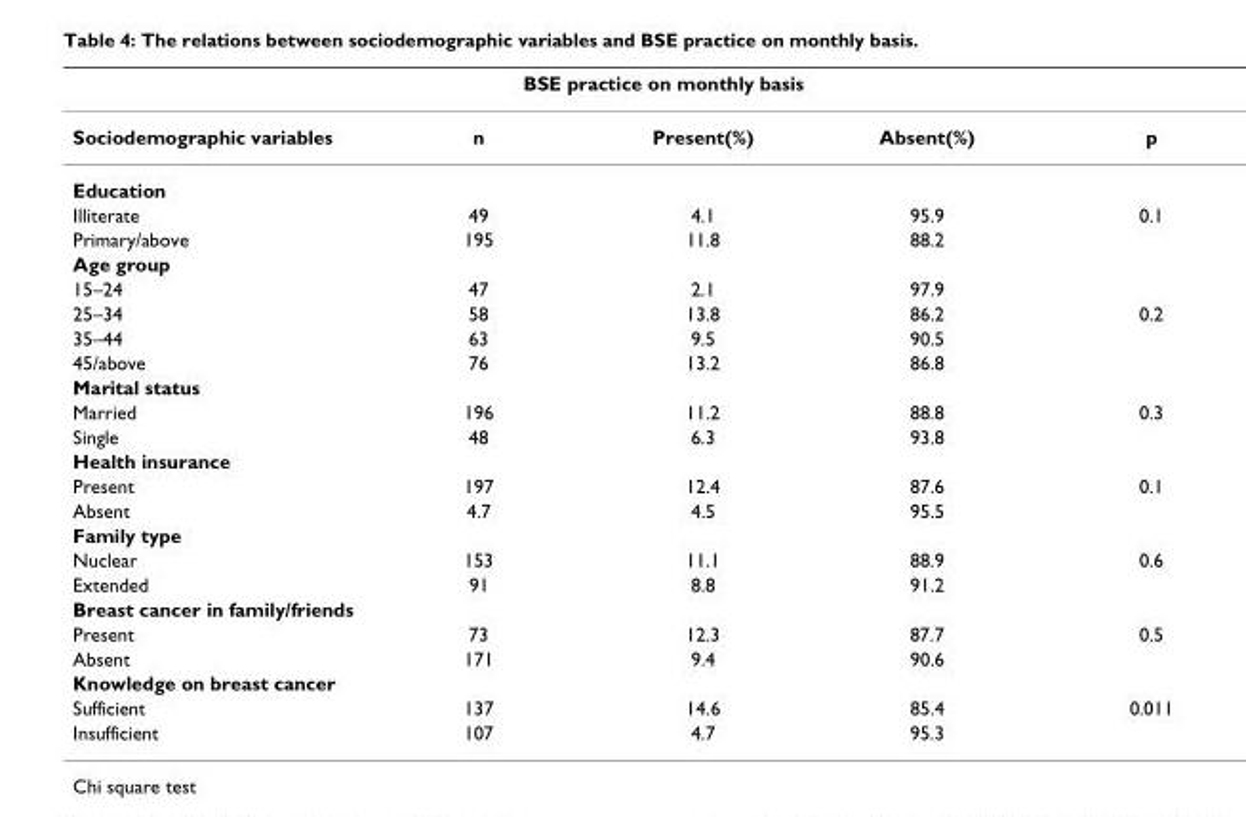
<table><thead><tr><td colspan="5">BSE practice on monthly basis</td></tr><tr><td>Sociodemographic variables</td><td>n</td><td>Present(%)</td><td>Absent(%)</td><td>p</td></tr></thead><tbody><tr><td colspan="5">Education</td></tr><tr><td>Illiterate</td><td>49</td><td>4.1</td><td>95.9</td><td>0.1</td></tr><tr><td>Primary/above</td><td>195</td><td>11.8</td><td>88.2</td><td></td></tr><tr><td colspan="5">Age group</td></tr><tr><td>15–24</td><td>47</td><td>2.1</td><td>97.9</td><td></td></tr><tr><td>25–34</td><td>58</td><td>13.8</td><td>86.2</td><td>0.2</td></tr><tr><td>35–44</td><td>63</td><td>9.5</td><td>90.5</td><td></td></tr><tr><td>45/above</td><td>76</td><td>13.2</td><td>86.8</td><td></td></tr><tr><td colspan="5">Marital status</td></tr><tr><td>Married</td><td>196</td><td>11.2</td><td>88.8</td><td>0.3</td></tr><tr><td>Single</td><td>48</td><td>6.3</td><td>93.8</td><td></td></tr><tr><td colspan="5">Health insurance</td></tr><tr><td>Present</td><td>197</td><td>12.4</td><td>87.6</td><td>0.1</td></tr><tr><td>Absent</td><td>4.7</td><td>4.5</td><td>95.5</td><td></td></tr><tr><td colspan="5">Family type</td></tr><tr><td>Nuclear</td><td>153</td><td>11.1</td><td>88.9</td><td>0.6</td></tr><tr><td>Extended</td><td>91</td><td>8.8</td><td>91.2</td><td></td></tr><tr><td colspan="5">Breast cancer in family/friends</td></tr><tr><td>Present</td><td>73</td><td>12.3</td><td>87.7</td><td>0.5</td></tr><tr><td>Absent</td><td>171</td><td>9.4</td><td>90.6</td><td></td></tr><tr><td colspan="5">Knowledge on breast cancer</td></tr><tr><td>Sufficient</td><td>137</td><td>14.6</td><td>85.4</td><td>0.011</td></tr><tr><td>Insufficient</td><td>107</td><td>4.7</td><td>95.3</td><td></td></tr></tbody></table>